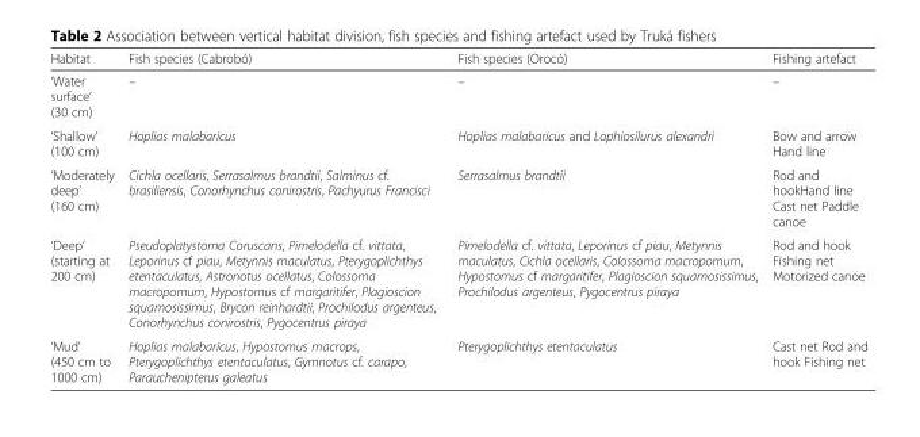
<table><thead><tr><td>Habitat</td><td>Fish species (Cabrobó)</td><td>Fish species (Orocó)</td><td>Fishing artefact</td></tr></thead><tbody><tr><td>‘Water surface’ (30 cm)</td><td>–</td><td>–</td><td>–</td></tr><tr><td>‘Shallow’ (100 cm)</td><td>Hoplias malabaricus</td><td>Hoplias malabaricus and Lophiosilurus alexandri</td><td>Bow and arrow Hand line</td></tr><tr><td>‘Moderately deep’ (160 cm)</td><td>Cichla ocellaris, Serrasalmus brandtii, Salminus cf. brasiliensis, Conorhynchus conirostris, Pachyurus Francisci</td><td>Serrasalmus brandtii</td><td>Rod and hookHand line Cast net Paddle canoe</td></tr><tr><td>‘Deep’ (starting at 200 cm)</td><td>Pseudoplatystoma Coruscans, Pimelodella cf. vittata, Leporinus cf piau, Metynnis maculatus, Pterygoplichthys etentaculatus, Astronotus ocellatus, Colossoma macropomum, Hypostomus cf margaritifer, Plagioscion squamosissimus, Brycon reinhardtii, Prochilodus argenteus, Conorhynchus conirostris, Pygocentrus piraya</td><td>Pimelodella cf. vittata, Leporinus cf piau, Metynnis maculatus, Cichla ocellaris, Colossoma macropomum, Hypostomus cf margaritifer, Plagioscion squamosissimus, Prochilodus argenteus, Pygocentrus piraya</td><td>Rod and hook Fishing net Motorized canoe</td></tr><tr><td>‘Mud’ (450 cm to 1000 cm)</td><td>Hoplias malabaricus, Hypostomus macrops, Pterygoplichthys etentaculatus, Gymnotus cf. carapo, Parauchenipterus galeatus</td><td>Pterygoplichthys etentaculatus</td><td>Cast net Rod and hook Fishing net</td></tr></tbody></table>